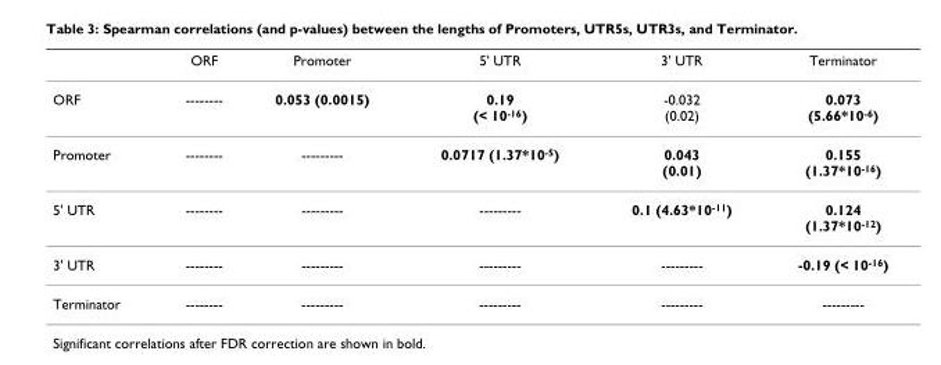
<table><thead><tr><td></td><td>ORF</td><td>Promoter</td><td>5&#x27; UTR</td><td>3&#x27; UTR</td><td>Terminator</td></tr></thead><tbody><tr><td>ORF</td><td>--------</td><td>0.053 (0.0015)</td><td>0.19 (&lt; 10<sup>-16</sup>)</td><td>-0.032 (0.02)</td><td>0.073 (5.66*10<sup>-6</sup>)</td></tr><tr><td>Promoter</td><td>--------</td><td>---------</td><td>0.0717 (1.37*10<sup>-5</sup>)</td><td>0.043 (0.01)</td><td>0.155 (1.37*10<sup>-16</sup>)</td></tr><tr><td>5&#x27; UTR</td><td>--------</td><td>---------</td><td>---------</td><td>0.1 (4.63*10<sup>-11</sup>)</td><td>0.124 (1.37*10<sup>-12</sup>)</td></tr><tr><td>3&#x27; UTR</td><td>--------</td><td>---------</td><td>---------</td><td>---------</td><td>-0.19 (&lt; 10<sup>-16</sup>)</td></tr><tr><td>Terminator</td><td>--------</td><td>---------</td><td>---------</td><td>---------</td><td>---------</td></tr></tbody></table>